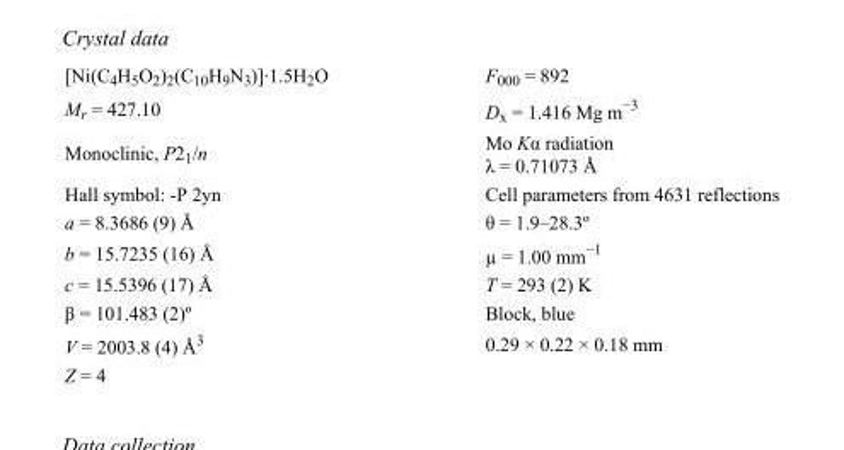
<table><tbody><tr><td>[Ni(C<sub>4</sub>H<sub>5</sub>O<sub>2</sub>)<sub>2</sub>(C<sub>10</sub>H<sub>9</sub>N<sub>3</sub>)]·1.5H<sub>2</sub>O</td><td>F<sub>000</sub> = 892</td></tr><tr><td>M<sub>r</sub> = 427.10</td><td>D<sub>x</sub> = 1.416 Mg m<sup>−3</sup></td></tr><tr><td>Monoclinic, P2<sub>1</sub>/n</td><td>Mo Kα radiation λ = 0.71073 Å</td></tr><tr><td>Hall symbol: -P 2yn</td><td>Cell parameters from 4631 reflections</td></tr><tr><td>a = 8.3686 (9) Å</td><td>θ = 1.9–28.3º</td></tr><tr><td>b = 15.7235 (16) Å</td><td>µ = 1.00 mm<sup>−1</sup></td></tr><tr><td>c = 15.5396 (17) Å</td><td>T = 293 (2) K</td></tr><tr><td>β = 101.483 (2)º</td><td>Block, blue</td></tr><tr><td>V = 2003.8 (4) Å<sup>3</sup></td><td>0.29 × 0.22 × 0.18 mm</td></tr><tr><td>Z = 4</td><td></td></tr></tbody></table>